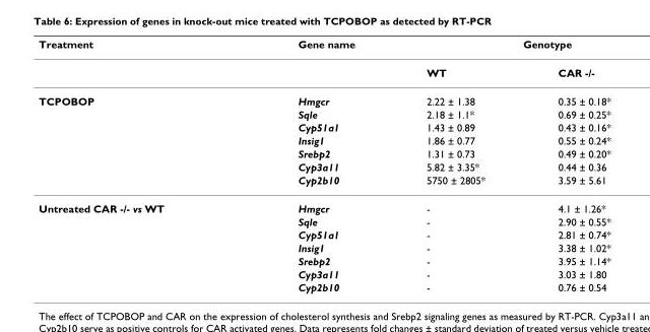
<table><thead><tr><td rowspan="2">Treatment</td><td rowspan="2">Gene name</td><td colspan="2">Genotype</td></tr><tr><td>WT</td><td>CAR -/-</td></tr></thead><tbody><tr><td rowspan="7">TCPOBOP</td><td>Hmgcr</td><td>2.22 ± 1.38</td><td>0.35 ± 0.18*</td></tr><tr><td>Sqle</td><td>2.18 ± 1.1*</td><td>0.69 ± 0.25*</td></tr><tr><td>Cyp51a1</td><td>1.43 ± 0.89</td><td>0.43 ± 0.16*</td></tr><tr><td>Insig1</td><td>1.86 ± 0.77</td><td>0.55 ± 0.24*</td></tr><tr><td>Srebp2</td><td>1.31 ± 0.73</td><td>0.49 ± 0.20*</td></tr><tr><td>Cyp3a11</td><td>5.82 ± 3.35*</td><td>0.44 ± 0.36</td></tr><tr><td>Cyp2b10</td><td>5750 ± 2805*</td><td>3.59 ± 5.61</td></tr><tr><td rowspan="7">Untreated CAR -/- vs WT</td><td>Hmgcr</td><td>-</td><td>4.1 ± 1.26*</td></tr><tr><td>Sqle</td><td>-</td><td>2.90 ± 0.55*</td></tr><tr><td>Cyp51a1</td><td>-</td><td>2.81 ± 0.74*</td></tr><tr><td>Insig1</td><td>-</td><td>3.38 ± 1.02*</td></tr><tr><td>Srebp2</td><td>-</td><td>3.95 ± 1.14*</td></tr><tr><td>Cyp3a11</td><td>-</td><td>3.03 ± 1.80</td></tr><tr><td>Cyp2b10</td><td>-</td><td>0.76 ± 0.54</td></tr></tbody></table>